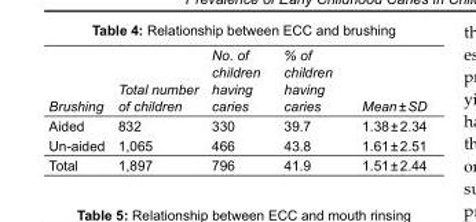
<table><tbody><tr><td>Brushing</td><td>Total number of children</td><td>No. of children having caries</td><td>% of children having caries</td><td>Mean ± SD</td></tr><tr><td>Aided</td><td>832</td><td>330</td><td>39.7</td><td>1.38 ± 2.34</td></tr><tr><td>Un-aided</td><td>1,065</td><td>466</td><td>43.8</td><td>1.61 ± 2.51</td></tr><tr><td>Total</td><td>1,897</td><td>796</td><td>41.9</td><td>1.51 ± 2.44</td></tr></tbody></table>